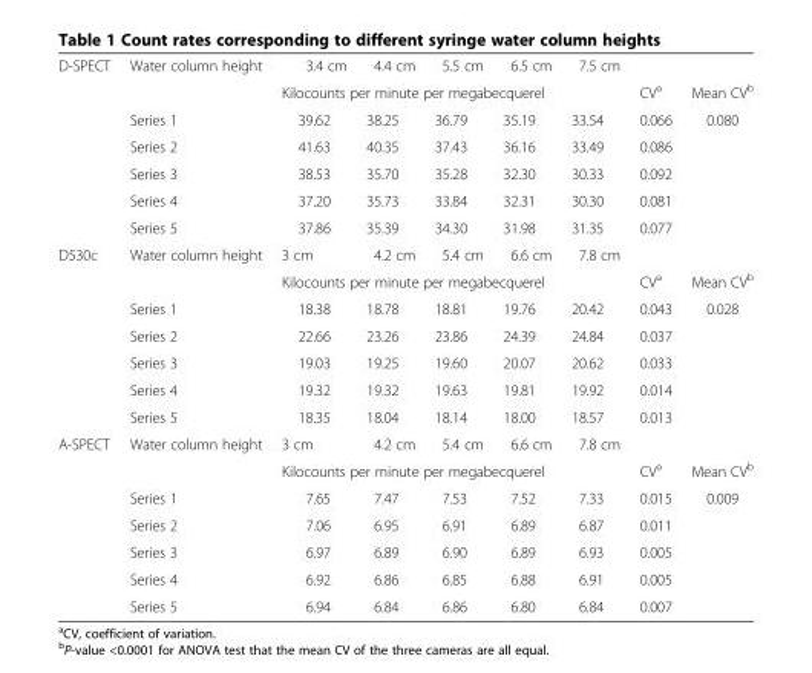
<table><tbody><tr><td rowspan="7">D-SPECT</td><td>Water column height</td><td>3.4 cm</td><td>4.4 cm</td><td>5.5 cm</td><td>6.5 cm</td><td>7.5 cm</td><td colspan="2"></td></tr><tr><td></td><td colspan="5">Kilocounts per minute per megabecquerel</td><td>CV<sup>a</sup></td><td>Mean CV<sup>b</sup></td></tr><tr><td>Series 1</td><td>39.62</td><td>38.25</td><td>36.79</td><td>35.19</td><td>33.54</td><td>0.066</td><td rowspan="5">0.080</td></tr><tr><td>Series 2</td><td>41.63</td><td>40.35</td><td>37.43</td><td>36.16</td><td>33.49</td><td>0.086</td></tr><tr><td>Series 3</td><td>38.53</td><td>35.70</td><td>35.28</td><td>32.30</td><td>30.33</td><td>0.092</td></tr><tr><td>Series 4</td><td>37.20</td><td>35.73</td><td>33.84</td><td>32.31</td><td>30.30</td><td>0.081</td></tr><tr><td>Series 5</td><td>37.86</td><td>35.39</td><td>34.30</td><td>31.98</td><td>31.35</td><td>0.077</td></tr><tr><td rowspan="7">D530c</td><td>Water column height</td><td>3 cm</td><td>4.2 cm</td><td>5.4 cm</td><td>6.6 cm</td><td>7.8 cm</td><td></td><td></td></tr><tr><td></td><td colspan="5">Kilocounts per minute per megabecquerel</td><td>CV<sup>a</sup></td><td>Mean CV<sup>b</sup></td></tr><tr><td>Series 1</td><td>18.38</td><td>18.78</td><td>18.81</td><td>19.76</td><td>20.42</td><td>0.043</td><td rowspan="5">0.028</td></tr><tr><td>Series 2</td><td>22.66</td><td>23.26</td><td>23.86</td><td>24.39</td><td>24.84</td><td>0.037</td></tr><tr><td>Series 3</td><td>19.03</td><td>19.25</td><td>19.60</td><td>20.07</td><td>20.62</td><td>0.033</td></tr><tr><td>Series 4</td><td>19.32</td><td>19.32</td><td>19.63</td><td>19.81</td><td>19.92</td><td>0.014</td></tr><tr><td>Series 5</td><td>18.35</td><td>18.04</td><td>18.14</td><td>18.00</td><td>18.57</td><td>0.013</td></tr><tr><td rowspan="7">A-SPECT</td><td>Water column height</td><td>3 cm</td><td>4.2 cm</td><td>5.4 cm</td><td>6.6 cm</td><td>7.8 cm</td><td></td><td></td></tr><tr><td></td><td colspan="5">Kilocounts per minute per megabecquerel</td><td>CV<sup>a</sup></td><td>Mean CV<sup>b</sup></td></tr><tr><td>Series 1</td><td>7.65</td><td>7.47</td><td>7.53</td><td>7.52</td><td>7.33</td><td>0.015</td><td rowspan="5">0.009</td></tr><tr><td>Series 2</td><td>7.06</td><td>6.95</td><td>6.91</td><td>6.89</td><td>6.87</td><td>0.011</td></tr><tr><td>Series 3</td><td>6.97</td><td>6.89</td><td>6.90</td><td>6.89</td><td>6.93</td><td>0.005</td></tr><tr><td>Series 4</td><td>6.92</td><td>6.86</td><td>6.85</td><td>6.88</td><td>6.91</td><td>0.005</td></tr><tr><td>Series 5</td><td>6.94</td><td>6.84</td><td>6.86</td><td>6.80</td><td>6.84</td><td>0.007</td></tr></tbody></table>